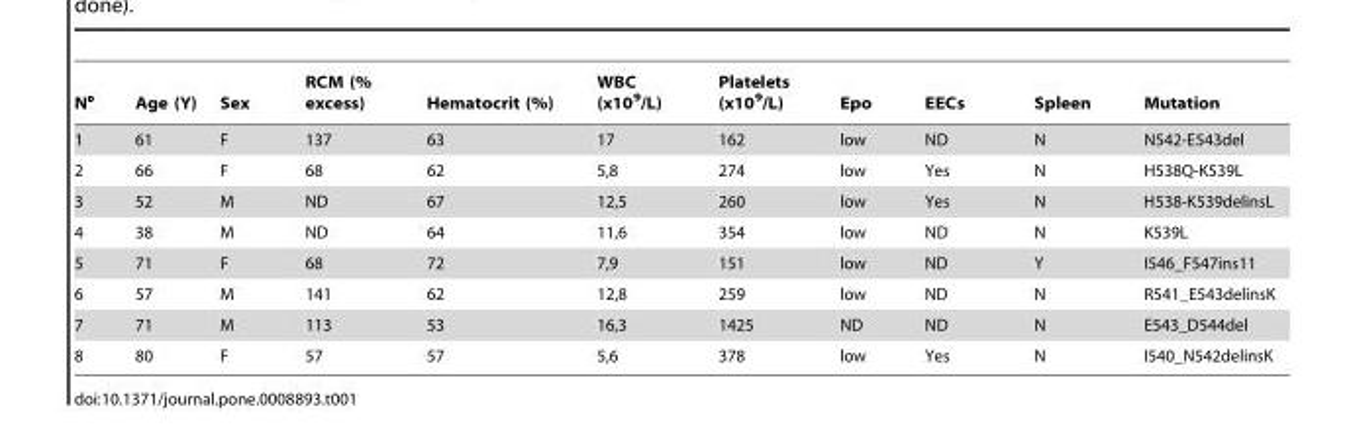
<table><thead><tr><td>N°</td><td>Age (Y)</td><td>Sex</td><td>RCM (% excess)</td><td>Hematocrit (%)</td><td>WBC (x10<sup>9</sup>/L)</td><td>Platelets (x10<sup>9</sup>/L)</td><td>Epo</td><td>EECs</td><td>Spleen</td><td>Mutation</td></tr></thead><tbody><tr><td>1</td><td>61</td><td>F</td><td>137</td><td>63</td><td>17</td><td>162</td><td>low</td><td>ND</td><td>N</td><td>N542-E543del</td></tr><tr><td>2</td><td>66</td><td>F</td><td>68</td><td>62</td><td>5,8</td><td>274</td><td>low</td><td>Yes</td><td>N</td><td>H538Q-K539L</td></tr><tr><td>3</td><td>52</td><td>M</td><td>ND</td><td>67</td><td>12,5</td><td>260</td><td>low</td><td>Yes</td><td>N</td><td>H538-K539delinsL</td></tr><tr><td>4</td><td>38</td><td>M</td><td>ND</td><td>64</td><td>11,6</td><td>354</td><td>low</td><td>ND</td><td>N</td><td>K539L</td></tr><tr><td>5</td><td>71</td><td>F</td><td>68</td><td>72</td><td>7,9</td><td>151</td><td>low</td><td>ND</td><td>Y</td><td>I546_F547ins11</td></tr><tr><td>6</td><td>57</td><td>M</td><td>141</td><td>62</td><td>12,8</td><td>259</td><td>low</td><td>ND</td><td>N</td><td>R541_E543delinsK</td></tr><tr><td>7</td><td>71</td><td>M</td><td>113</td><td>53</td><td>16,3</td><td>1425</td><td>ND</td><td>ND</td><td>N</td><td>E543_D544del</td></tr><tr><td>8</td><td>80</td><td>F</td><td>57</td><td>57</td><td>5,6</td><td>378</td><td>low</td><td>Yes</td><td>N</td><td>I540_N542delinsK</td></tr></tbody></table>